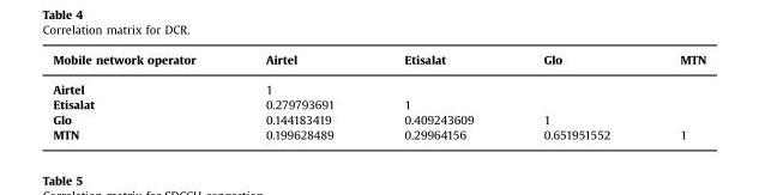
<table><thead><tr><td>Mobile network operator</td><td>Airtel</td><td>Etisalat</td><td>Glo</td><td>MTN</td></tr></thead><tbody><tr><td>Airtel</td><td>1</td><td></td><td></td><td></td></tr><tr><td>Etisalat</td><td>0.279793691</td><td>1</td><td></td><td></td></tr><tr><td>Glo</td><td>0.144183419</td><td>0.409243609</td><td>1</td><td></td></tr><tr><td>MTN</td><td>0.199628489</td><td>0.29964156</td><td>0.651951552</td><td>1</td></tr></tbody></table>